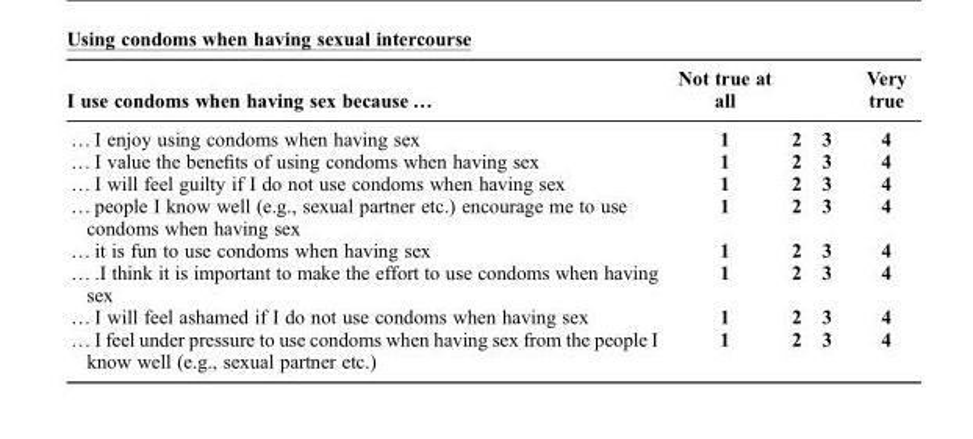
<table><thead><tr><td>I use condoms when having sex because …</td><td>Not true at all</td><td></td><td></td><td>Very true</td></tr></thead><tbody><tr><td>… I enjoy using condoms when having sex</td><td>1</td><td>2</td><td>3</td><td>4</td></tr><tr><td>… I value the benefits of using condoms when having sex</td><td>1</td><td>2</td><td>3</td><td>4</td></tr><tr><td>… I will feel guilty if I do not use condoms when having sex</td><td>1</td><td>2</td><td>3</td><td>4</td></tr><tr><td>… people I know well (e.g., sexual partner etc.) encourage me to use condoms when having sex</td><td>1</td><td>2</td><td>3</td><td>4</td></tr><tr><td>… it is fun to use condoms when having sex</td><td>1</td><td>2</td><td>3</td><td>4</td></tr><tr><td>… .I think it is important to make the effort to use condoms when having sex</td><td>1</td><td>2</td><td>3</td><td>4</td></tr><tr><td>… I will feel ashamed if I do not use condoms when having sex</td><td>1</td><td>2</td><td>3</td><td>4</td></tr><tr><td>… I feel under pressure to use condoms when having sex from the people I know well (e.g., sexual partner etc.)</td><td>1</td><td>2</td><td>3</td><td>4</td></tr></tbody></table>